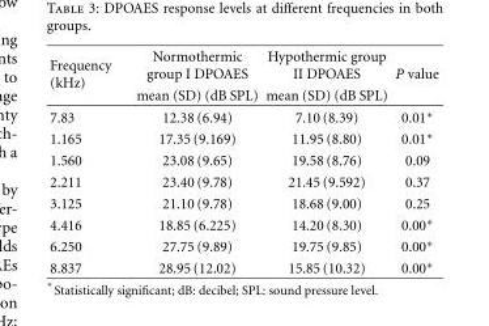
<table><thead><tr><td rowspan="2">Frequency (kHz)</td><td rowspan="2">Normothermic group I DPOAES mean (SD) (dB SPL)</td><td rowspan="2">Hypothermic group II DPOAES mean (SD) (dB SPL)</td><td rowspan="2">P value</td></tr><tr></tr></thead><tbody><tr><td>7.83</td><td>12.38 (6.94)</td><td>7.10 (8.39)</td><td>0.01∗</td></tr><tr><td>1.165</td><td>17.35 (9.169)</td><td>11.95 (8.80)</td><td>0.01∗</td></tr><tr><td>1.560</td><td>23.08 (9.65)</td><td>19.58 (8.76)</td><td>0.09</td></tr><tr><td>2.211</td><td>23.40 (9.78)</td><td>21.45 (9.592)</td><td>0.37</td></tr><tr><td>3.125</td><td>21.10 (9.78)</td><td>18.68 (9.00)</td><td>0.25</td></tr><tr><td>4.416</td><td>18.85 (6.225)</td><td>14.20 (8.30)</td><td>0.00∗</td></tr><tr><td>6.250</td><td>27.75 (9.89)</td><td>19.75 (9.85)</td><td>0.00∗</td></tr><tr><td>8.837</td><td>28.95 (12.02)</td><td>15.85 (10.32)</td><td>0.00∗</td></tr></tbody></table>